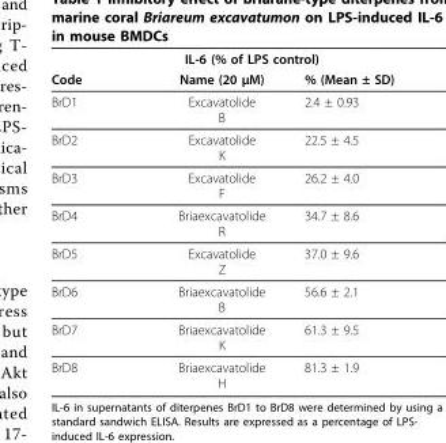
<table><thead><tr><td colspan="3">IL-6 (% of LPS control)</td></tr><tr><td>Code</td><td>Name (20 μM)</td><td>% (Mean ± SD)</td></tr></thead><tbody><tr><td>BrD1</td><td>Excavatolide B</td><td>2.4 ± 0.93</td></tr><tr><td>BrD2</td><td>Excavatolide K</td><td>22.5 ± 4.5</td></tr><tr><td>BrD3</td><td>Excavatolide F</td><td>26.2 ± 4.0</td></tr><tr><td>BrD4</td><td>Briaexcavatolide R</td><td>34.7 ± 8.6</td></tr><tr><td>BrD5</td><td>Excavatolide Z</td><td>37.0 ± 9.6</td></tr><tr><td>BrD6</td><td>Briaexcavatolide B</td><td>56.6 ± 2.1</td></tr><tr><td>BrD7</td><td>Briaexcavatolide K</td><td>61.3 ± 9.5</td></tr><tr><td>BrD8</td><td>Briaexcavatolide H</td><td>81.3 ± 1.9</td></tr></tbody></table>